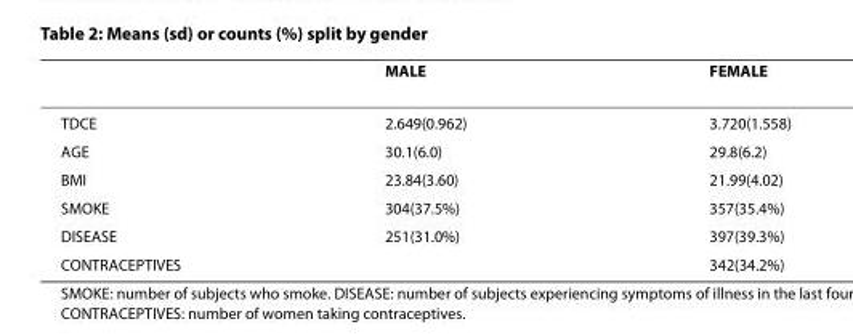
<table><thead><tr><td></td><td>MALE</td><td>FEMALE</td></tr></thead><tbody><tr><td>TDCE</td><td>2.649(0.962)</td><td>3.720(1.558)</td></tr><tr><td>AGE</td><td>30.1(6.0)</td><td>29.8(6.2)</td></tr><tr><td>BMI</td><td>23.84(3.60)</td><td>21.99(4.02)</td></tr><tr><td>SMOKE</td><td>304(37.5%)</td><td>357(35.4%)</td></tr><tr><td>DISEASE</td><td>251(31.0%)</td><td>397(39.3%)</td></tr><tr><td>CONTRACEPTIVES</td><td></td><td>342(34.2%)</td></tr></tbody></table>